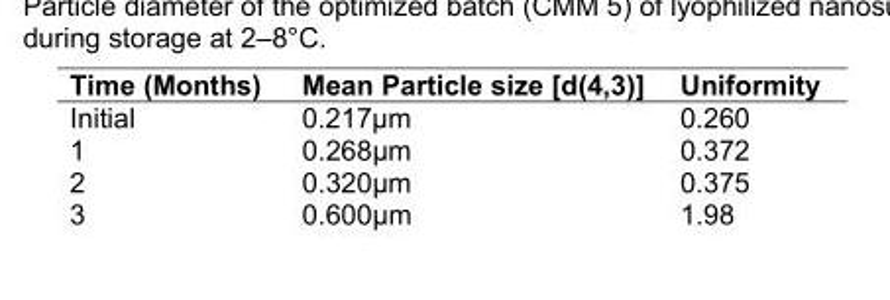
<table><thead><tr><td>Time (Months)</td><td>Mean Particle size [d(4,3)]</td><td>Uniformity</td></tr></thead><tbody><tr><td>Initial</td><td>0.217µm</td><td>0.260</td></tr><tr><td>1</td><td>0.268µm</td><td>0.372</td></tr><tr><td>2</td><td>0.320µm</td><td>0.375</td></tr><tr><td>3</td><td>0.600µm</td><td>1.98</td></tr></tbody></table>